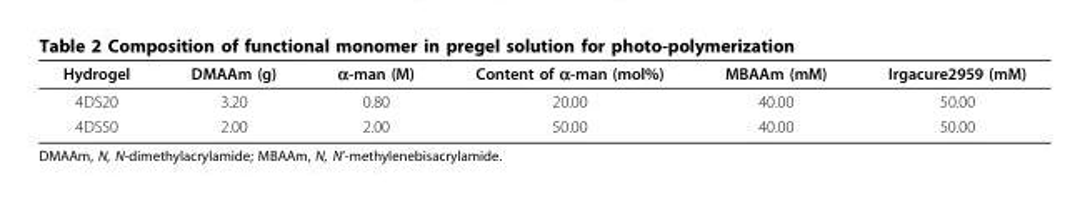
<table><thead><tr><td>Hydrogel</td><td>DMAAm (g)</td><td>α-man (M)</td><td>Content of α-man (mol%)</td><td>MBAAm (mM)</td><td>Irgacure2959 (mM)</td></tr></thead><tbody><tr><td>4DS20</td><td>3.20</td><td>0.80</td><td>20.00</td><td>40.00</td><td>50.00</td></tr><tr><td>4DS50</td><td>2.00</td><td>2.00</td><td>50.00</td><td>40.00</td><td>50.00</td></tr></tbody></table>